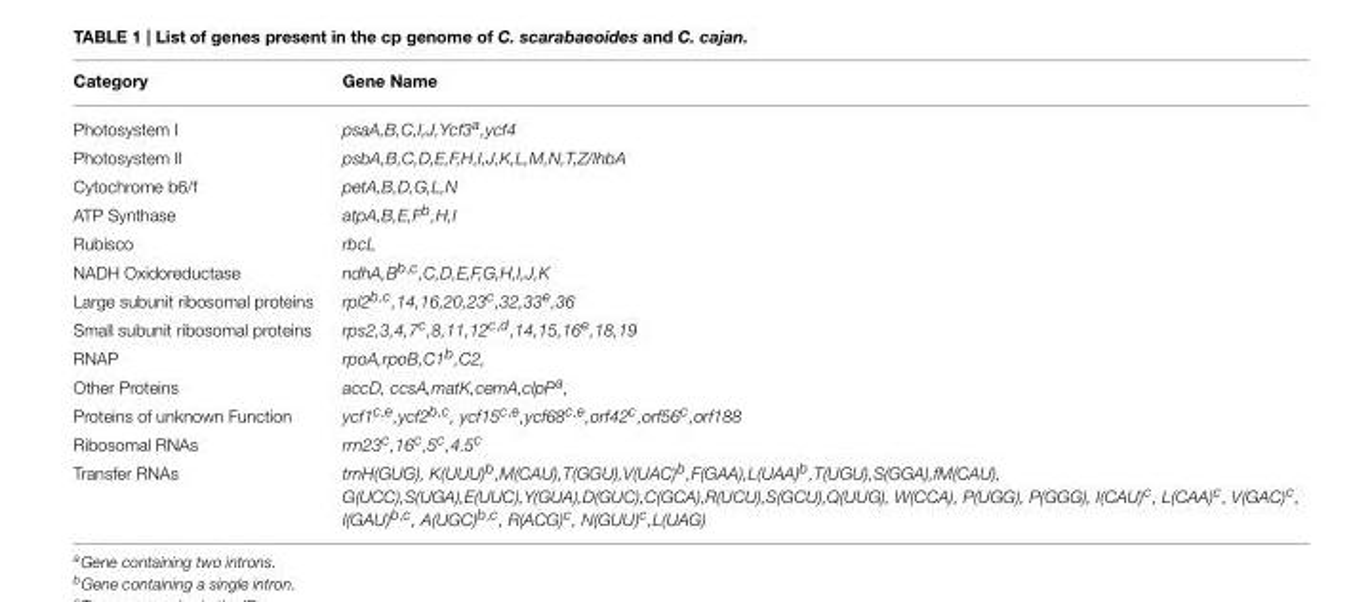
<table><thead><tr><td>Category</td><td>Gene Name</td></tr></thead><tbody><tr><td>Photosystem I</td><td>psaA,B,C,I,J,Ycf3<sup>a</sup>,ycf4</td></tr><tr><td>Photosystem II</td><td>psbA,B,C,D,E,F,H,I,J,K,L,M,N,T,Z/lhbA</td></tr><tr><td>Cytochrome b6/f</td><td>petA,B,D,G,L,N</td></tr><tr><td>ATP Synthase</td><td>atpA,B,E,F<sup>b</sup>,H,I</td></tr><tr><td>Rubisco</td><td>rbcL</td></tr><tr><td>NADH Oxidoreductase</td><td>ndhA,B<sup>b,c</sup>,C,D,E,F,G,H,I,J,K</td></tr><tr><td>Large subunit ribosomal proteins</td><td>rpl2<sup>b,c</sup>,14,16,20,23<sup>c</sup>,32,33<sup>e</sup>,36</td></tr><tr><td>Small subunit ribosomal proteins</td><td>rps2,3,4,7<sup>c</sup>,8,11,12<sup>c,d</sup>,14,15,16<sup>e</sup>,18,19</td></tr><tr><td>RNAP</td><td>rpoA,rpoB,C1<sup>b</sup>,C2,</td></tr><tr><td>Other Proteins</td><td>accD, ccsA,matK,cemA,clpP<sup>a</sup>,</td></tr><tr><td>Proteins of unknown Function</td><td>ycf1<sup>c,e</sup>,ycf2<sup>b,c</sup>, ycf15<sup>c,e</sup>,ycf68<sup>c,e</sup>,orf42<sup>c</sup>,orf56<sup>c</sup>,orf188</td></tr><tr><td>Ribosomal RNAs</td><td>rrn23<sup>c</sup>,16<sup>c</sup>,5<sup>c</sup>,4.5<sup>c</sup></td></tr><tr><td>Transfer RNAs</td><td>trnH(GUG), K(UUU)<sup>b</sup>,M(CAU),T(GGU),V(UAC)<sup>b</sup>,F(GAA),L(UAA)<sup>b</sup>,T(UGU),S(GGA),fM(CAU), G(UCC),S(UGA),E(UUC),Y(GUA),D(GUC),C(GCA),R(UCU),S(GCU),Q(UUG), W(CCA), P(UGG), P(GGG), I(CAU)<sup>c</sup>, L(CAA)<sup>c</sup>, V(GAC)<sup>c</sup>, I(GAU)<sup>b,c</sup>, A(UGC)<sup>b,c</sup>, R(ACG)<sup>c</sup>, N(GUU)<sup>c</sup>,L(UAG)</td></tr></tbody></table>